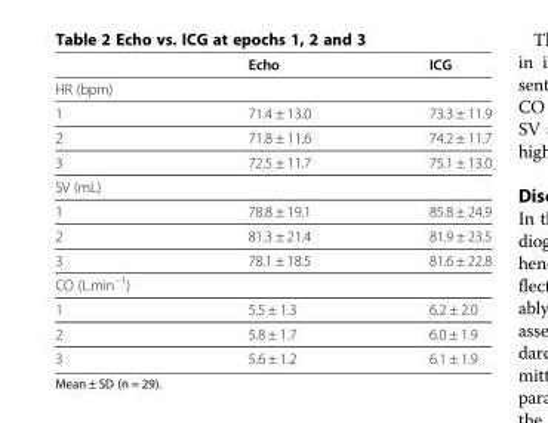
<table><thead><tr><td></td><td>Echo</td><td>ICG</td></tr></thead><tbody><tr><td colspan="3">HR (bpm)</td></tr><tr><td>1</td><td>71.4 ± 13.0</td><td>73.3 ± 11.9</td></tr><tr><td>2</td><td>71.8 ± 11.6</td><td>74.2 ± 11.7</td></tr><tr><td>3</td><td>72.5 ± 11.7</td><td>75.1 ± 13.0</td></tr><tr><td colspan="3">SV (mL)</td></tr><tr><td>1</td><td>78.8 ± 19.1</td><td>85.8 ± 24.9</td></tr><tr><td>2</td><td>81.3 ± 21.4</td><td>81.9 ± 23.5</td></tr><tr><td>3</td><td>78.1 ± 18.5</td><td>81.6 ± 22.8</td></tr><tr><td colspan="3">CO (L.min<sup>−1</sup>)</td></tr><tr><td>1</td><td>5.5 ± 1.3</td><td>6.2 ± 2.0</td></tr><tr><td>2</td><td>5.8 ± 1.7</td><td>6.0 ± 1.9</td></tr><tr><td>3</td><td>5.6 ± 1.2</td><td>6.1 ± 1.9</td></tr></tbody></table>